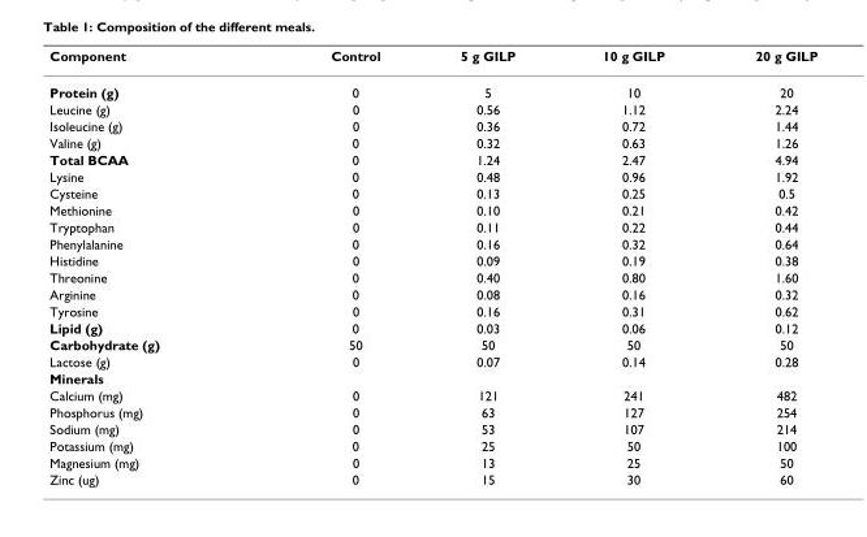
<table><thead><tr><td>Component</td><td>Control</td><td>5 g GILP</td><td>10 g GILP</td><td>20 g GILP</td></tr></thead><tbody><tr><td>Protein (g)</td><td>0</td><td>5</td><td>10</td><td>20</td></tr><tr><td>Leucine (g)</td><td>0</td><td>0.56</td><td>1.12</td><td>2.24</td></tr><tr><td>Isoleucine (g)</td><td>0</td><td>0.36</td><td>0.72</td><td>1.44</td></tr><tr><td>Valine (g)</td><td>0</td><td>0.32</td><td>0.63</td><td>1.26</td></tr><tr><td>Total BCAA</td><td>0</td><td>1.24</td><td>2.47</td><td>4.94</td></tr><tr><td>Lysine</td><td>0</td><td>0.48</td><td>0.96</td><td>1.92</td></tr><tr><td>Cysteine</td><td>0</td><td>0.13</td><td>0.25</td><td>0.5</td></tr><tr><td>Methionine</td><td>0</td><td>0.10</td><td>0.21</td><td>0.42</td></tr><tr><td>Tryptophan</td><td>0</td><td>0.11</td><td>0.22</td><td>0.44</td></tr><tr><td>Phenylalanine</td><td>0</td><td>0.16</td><td>0.32</td><td>0.64</td></tr><tr><td>Histidine</td><td>0</td><td>0.09</td><td>0.19</td><td>0.38</td></tr><tr><td>Threonine</td><td>0</td><td>0.40</td><td>0.80</td><td>1.60</td></tr><tr><td>Arginine</td><td>0</td><td>0.08</td><td>0.16</td><td>0.32</td></tr><tr><td>Tyrosine</td><td>0</td><td>0.16</td><td>0.31</td><td>0.62</td></tr><tr><td>Lipid (g)</td><td>0</td><td>0.03</td><td>0.06</td><td>0.12</td></tr><tr><td>Carbohydrate (g)</td><td>50</td><td>50</td><td>50</td><td>50</td></tr><tr><td>Lactose (g)</td><td>0</td><td>0.07</td><td>0.14</td><td>0.28</td></tr><tr><td colspan="5">Minerals</td></tr><tr><td>Calcium (mg)</td><td>0</td><td>121</td><td>241</td><td>482</td></tr><tr><td>Phosphorus (mg)</td><td>0</td><td>63</td><td>127</td><td>254</td></tr><tr><td>Sodium (mg)</td><td>0</td><td>53</td><td>107</td><td>214</td></tr><tr><td>Potassium (mg)</td><td>0</td><td>25</td><td>50</td><td>100</td></tr><tr><td>Magnesium (mg)</td><td>0</td><td>13</td><td>25</td><td>50</td></tr><tr><td>Zinc (ug)</td><td>0</td><td>15</td><td>30</td><td>60</td></tr></tbody></table>